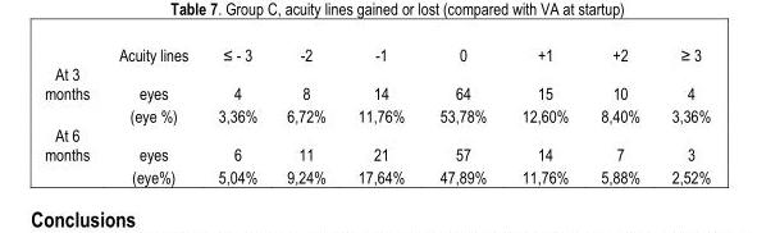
<table><thead><tr><td></td><td>Acuity lines</td><td>≤ - 3</td><td>-2</td><td>-1</td><td>0</td><td>+1</td><td>+2</td><td>≥ 3</td></tr></thead><tbody><tr><td rowspan="2">At 3 months</td><td>eyes</td><td>4</td><td>8</td><td>14</td><td>64</td><td>15</td><td>10</td><td>4</td></tr><tr><td>(eye %)</td><td>3,36%</td><td>6,72%</td><td>11,76%</td><td>53,78%</td><td>12,60%</td><td>8,40%</td><td>3,36%</td></tr><tr><td rowspan="2">At 6 months</td><td>eyes</td><td>6</td><td>11</td><td>21</td><td>57</td><td>14</td><td>7</td><td>3</td></tr><tr><td>(eye%)</td><td>5,04%</td><td>9,24%</td><td>17,64%</td><td>47,89%</td><td>11,76%</td><td>5,88%</td><td>2,52%</td></tr></tbody></table>